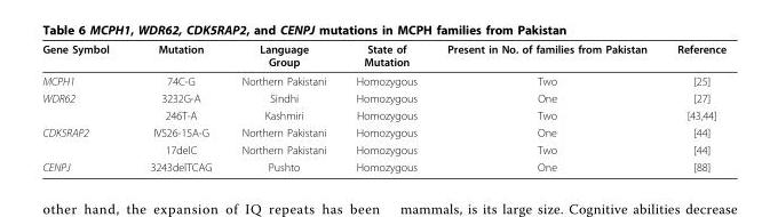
<table><thead><tr><td>Gene Symbol</td><td>Mutation</td><td>Language Group</td><td>State of Mutation</td><td>Present in No. of families from Pakistan</td><td>Reference</td></tr></thead><tbody><tr><td>MCPH1</td><td>74C-G</td><td>Northern Pakistani</td><td>Homozygous</td><td>Two</td><td>[25]</td></tr><tr><td rowspan="2">WDR62</td><td>3232G-A</td><td>Sindhi</td><td>Homozygous</td><td>One</td><td>[27]</td></tr><tr><td>246T-A</td><td>Kashmiri</td><td>Homozygous</td><td>Two</td><td>[43,44]</td></tr><tr><td rowspan="2">CDK5RAP2</td><td>IVS26-15A-G</td><td>Northern Pakistani</td><td>Homozygous</td><td>One</td><td>[44]</td></tr><tr><td>17delC</td><td>Northern Pakistani</td><td>Homozygous</td><td>Two</td><td>[44]</td></tr><tr><td>CENPJ</td><td>3243delTCAG</td><td>Pushto</td><td>Homozygous</td><td>One</td><td>[88]</td></tr></tbody></table>